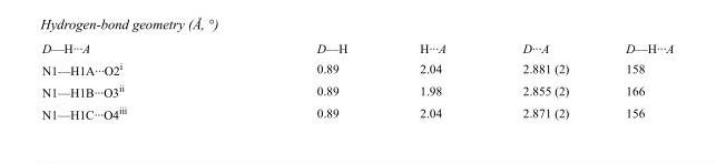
<table><tbody><tr><td>D—H···A</td><td>D—H</td><td>H···A</td><td>D···A</td><td>D—H···A</td></tr><tr><td>N1—H1A···O2<sup>i</sup></td><td>0.89</td><td>2.04</td><td>2.881 (2)</td><td>158</td></tr><tr><td>N1—H1B···O3<sup>ii</sup></td><td>0.89</td><td>1.98</td><td>2.855 (2)</td><td>166</td></tr><tr><td>N1—H1C···O4<sup>iii</sup></td><td>0.89</td><td>2.04</td><td>2.871 (2)</td><td>156</td></tr></tbody></table>